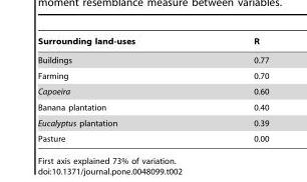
<table><thead><tr><td>Surrounding land-uses</td><td>R</td></tr></thead><tbody><tr><td>Buildings</td><td>0.77</td></tr><tr><td>Farming</td><td>0.70</td></tr><tr><td>Capoeira</td><td>0.60</td></tr><tr><td>Banana plantation</td><td>0.40</td></tr><tr><td>Eucalyptus plantation</td><td>0.39</td></tr><tr><td>Pasture</td><td>0.00</td></tr></tbody></table>